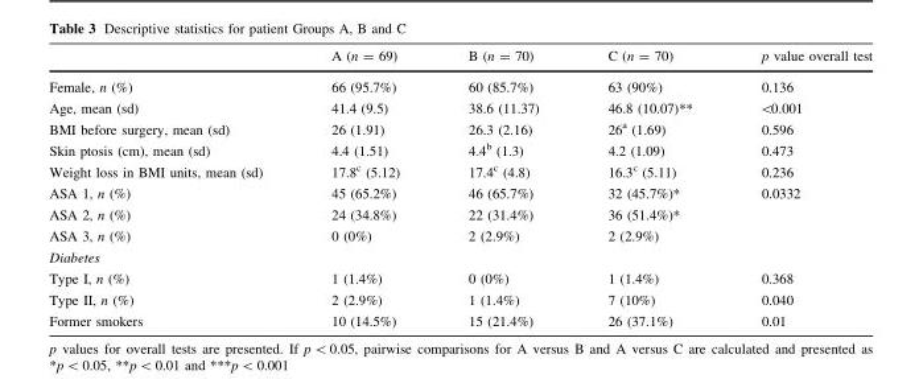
<table><thead><tr><td></td><td>A (n = 69)</td><td>B (n = 70)</td><td>C (n = 70)</td><td>p value overall test</td></tr></thead><tbody><tr><td>Female, n (%)</td><td>66 (95.7%)</td><td>60 (85.7%)</td><td>63 (90%)</td><td>0.136</td></tr><tr><td>Age, mean (sd)</td><td>41.4 (9.5)</td><td>38.6 (11.37)</td><td>46.8 (10.07)**</td><td>&lt;0.001</td></tr><tr><td>BMI before surgery, mean (sd)</td><td>26 (1.91)</td><td>26.3 (2.16)</td><td>26<sup>a</sup> (1.69)</td><td>0.596</td></tr><tr><td>Skin ptosis (cm), mean (sd)</td><td>4.4 (1.51)</td><td>4.4<sup>b</sup> (1.3)</td><td>4.2 (1.09)</td><td>0.473</td></tr><tr><td>Weight loss in BMI units, mean (sd)</td><td>17.8<sup>c</sup> (5.12)</td><td>17.4<sup>c</sup> (4.8)</td><td>16.3<sup>c</sup> (5.11)</td><td>0.236</td></tr><tr><td>ASA 1, n (%)</td><td>45 (65.2%)</td><td>46 (65.7%)</td><td>32 (45.7%)*</td><td>0.0332</td></tr><tr><td>ASA 2, n (%)</td><td>24 (34.8%)</td><td>22 (31.4%)</td><td>36 (51.4%)*</td><td></td></tr><tr><td>ASA 3, n (%)</td><td>0 (0%)</td><td>2 (2.9%)</td><td>2 (2.9%)</td><td></td></tr><tr><td colspan="5">Diabetes</td></tr><tr><td>Type I, n (%)</td><td>1 (1.4%)</td><td>0 (0%)</td><td>1 (1.4%)</td><td>0.368</td></tr><tr><td>Type II, n (%)</td><td>2 (2.9%)</td><td>1 (1.4%)</td><td>7 (10%)</td><td>0.040</td></tr><tr><td>Former smokers</td><td>10 (14.5%)</td><td>15 (21.4%)</td><td>26 (37.1%)</td><td>0.01</td></tr></tbody></table>